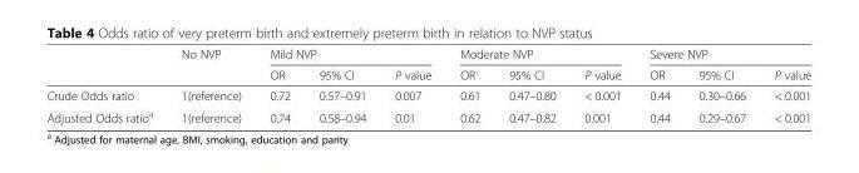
<table><thead><tr><td rowspan="2"></td><td rowspan="2">No NVP</td><td colspan="3">Mild NVP</td><td colspan="3">Moderate NVP</td><td colspan="3">Severe NVP</td></tr><tr><td>OR</td><td>95% CI</td><td>P value</td><td>OR</td><td>95% CI</td><td>P value</td><td>OR</td><td>95% CI</td><td>P value</td></tr></thead><tbody><tr><td>Crude Odds ratio</td><td>1(reference)</td><td>0.72</td><td>0.57–0.91</td><td>0.007</td><td>0.61</td><td>0.47–0.80</td><td>&lt; 0.001</td><td>0.44</td><td>0.30–0.66</td><td>&lt; 0.001</td></tr><tr><td>Adjusted Odds ratio<sup>a</sup></td><td>1(reference)</td><td>0.74</td><td>0.58–0.94</td><td>0.01</td><td>0.62</td><td>0.47–0.82</td><td>0.001</td><td>0.44</td><td>0.29–0.67</td><td>&lt; 0.001</td></tr></tbody></table>